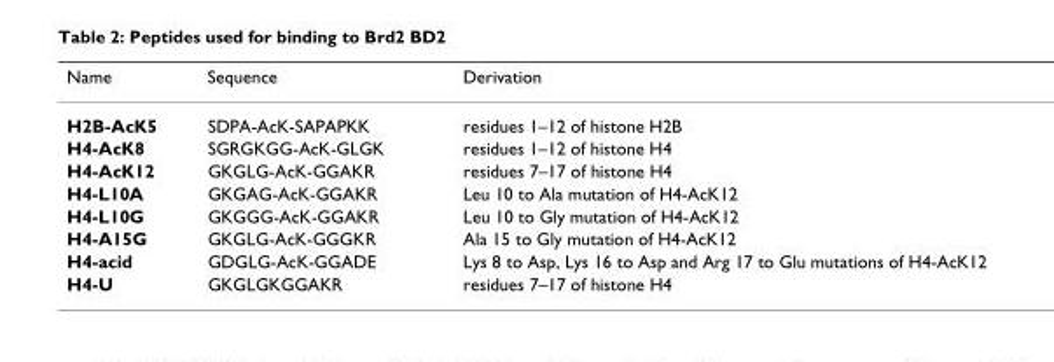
<table><thead><tr><td>Name</td><td>Sequence</td><td>Derivation</td></tr></thead><tbody><tr><td>H2B-AcK5</td><td>SDPA-AcK-SAPAPKK</td><td>residues 1–12 of histone H2B</td></tr><tr><td>H4-AcK8</td><td>SGRGKGG-AcK-GLGK</td><td>residues 1–12 of histone H4</td></tr><tr><td>H4-AcK12</td><td>GKGLG-AcK-GGAKR</td><td>residues 7–17 of histone H4</td></tr><tr><td>H4-L10A</td><td>GKGAG-AcK-GGAKR</td><td>Leu 10 to Ala mutation of H4-AcK12</td></tr><tr><td>H4-L10G</td><td>GKGGG-AcK-GGAKR</td><td>Leu 10 to Gly mutation of H4-AcK12</td></tr><tr><td>H4-A15G</td><td>GKGLG-AcK-GGGKR</td><td>Ala 15 to Gly mutation of H4-AcK12</td></tr><tr><td>H4-acid</td><td>GDGLG-AcK-GGADE</td><td>Lys 8 to Asp, Lys 16 to Asp and Arg 17 to Glu mutations of H4-AcK12</td></tr><tr><td>H4-U</td><td>GKGLGKGGAKR</td><td>residues 7–17 of histone H4</td></tr></tbody></table>